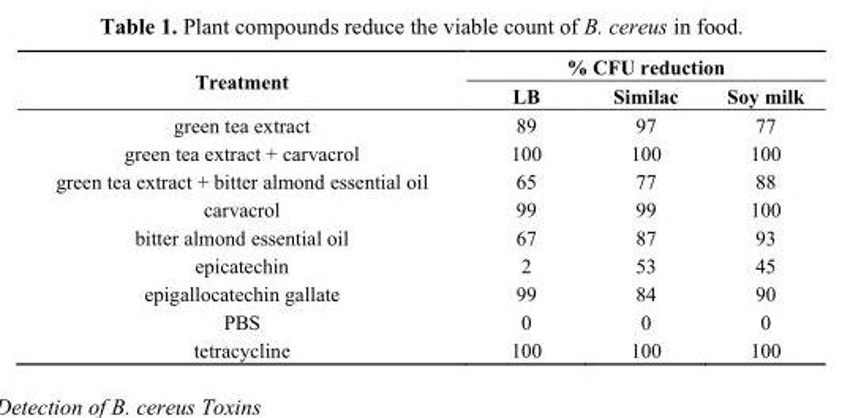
<table><thead><tr><td rowspan="2">Treatment</td><td colspan="3">% CFU reduction</td></tr><tr><td>LB</td><td>Similac</td><td>Soy milk</td></tr></thead><tbody><tr><td>green tea extract</td><td>89</td><td>97</td><td>77</td></tr><tr><td>green tea extract + carvacrol</td><td>100</td><td>100</td><td>100</td></tr><tr><td>green tea extract + bitter almond essential oil</td><td>65</td><td>77</td><td>88</td></tr><tr><td>carvacrol</td><td>99</td><td>99</td><td>100</td></tr><tr><td>bitter almond essential oil</td><td>67</td><td>87</td><td>93</td></tr><tr><td>epicatechin</td><td>2</td><td>53</td><td>45</td></tr><tr><td>epigallocatechin gallate</td><td>99</td><td>84</td><td>90</td></tr><tr><td>PBS</td><td>0</td><td>0</td><td>0</td></tr><tr><td>tetracycline</td><td>100</td><td>100</td><td>100</td></tr></tbody></table>